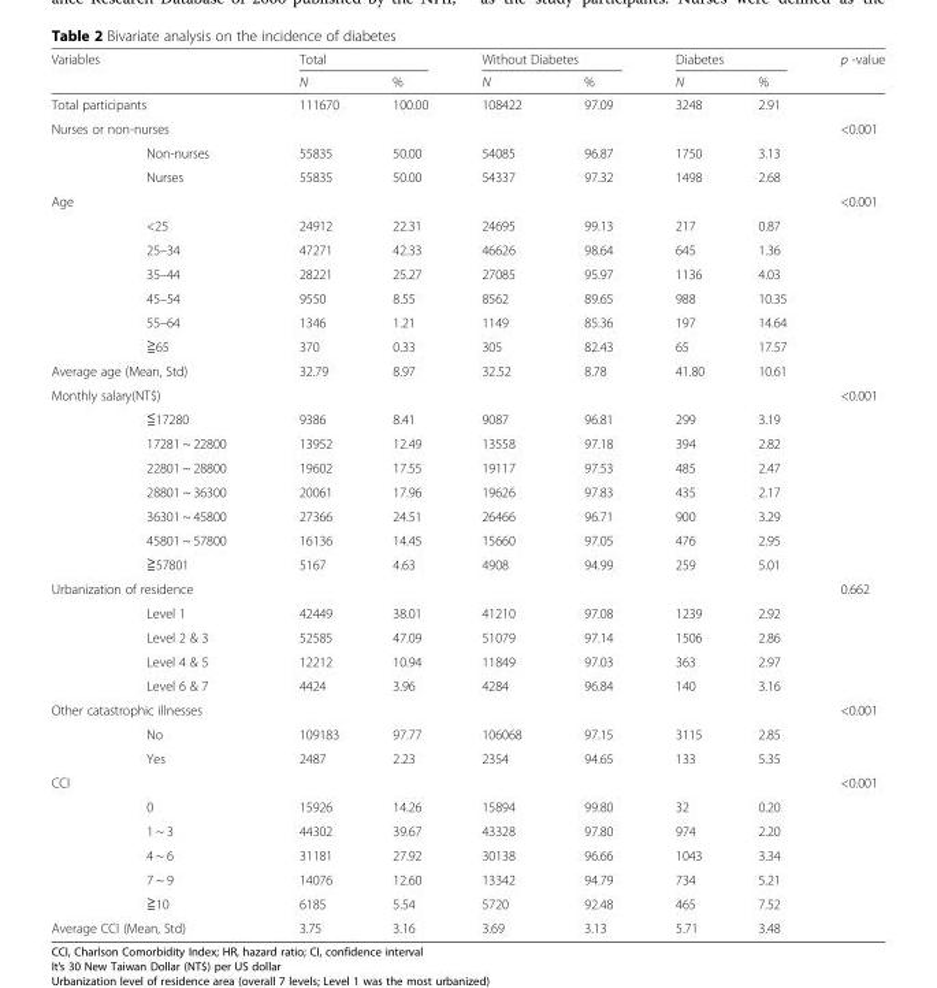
<table><thead><tr><td rowspan="4" colspan="2">Variables Total participants Nurses or non-nurses</td><td colspan="2">Total</td><td colspan="2">Without Diabetes</td><td colspan="2">Diabetes</td><td rowspan="5">p -value &lt;0.001</td></tr><tr><td rowspan="4">N 111670 55835</td><td rowspan="4">% 100.00 50.00</td><td rowspan="4">N 108422 54085</td><td rowspan="4">% 97.09 96.87</td><td rowspan="4">N 3248 1750</td><td rowspan="4">% 2.91 3.13</td></tr><tr></tr><tr></tr><tr><td></td><td>Non-nurses</td></tr></thead><tbody><tr><td></td><td>Nurses</td><td>55835</td><td>50.00</td><td>54337</td><td>97.32</td><td>1498</td><td>2.68</td><td></td></tr><tr><td rowspan="7">Age</td><td></td><td></td><td></td><td></td><td></td><td></td><td></td><td>&lt;0.001</td></tr><tr><td>&lt;25</td><td>24912</td><td>22.31</td><td>24695</td><td>99.13</td><td>217</td><td>0.87</td><td></td></tr><tr><td>25–34</td><td>47271</td><td>42.33</td><td>46626</td><td>98.64</td><td>645</td><td>1.36</td><td></td></tr><tr><td>35–44</td><td>28221</td><td>25.27</td><td>27085</td><td>95.97</td><td>1136</td><td>4.03</td><td></td></tr><tr><td>45–54</td><td>9550</td><td>8.55</td><td>8562</td><td>89.65</td><td>988</td><td>10.35</td><td></td></tr><tr><td>55–64</td><td>1346</td><td>1.21</td><td>1149</td><td>85.36</td><td>197</td><td>14.64</td><td></td></tr><tr><td>≧65</td><td>370</td><td>0.33</td><td>305</td><td>82.43</td><td>65</td><td>17.57</td><td></td></tr><tr><td colspan="2">Average age (Mean, Std)</td><td>32.79</td><td>8.97</td><td>32.52</td><td>8.78</td><td>41.80</td><td>10.61</td><td></td></tr><tr><td colspan="2">Monthly salary(NT$)</td><td></td><td></td><td></td><td></td><td></td><td></td><td>&lt;0.001</td></tr><tr><td></td><td>≦17280</td><td>9386</td><td>8.41</td><td>9087</td><td>96.81</td><td>299</td><td>3.19</td><td></td></tr><tr><td></td><td>17281 ~ 22800</td><td>13952</td><td>12.49</td><td>13558</td><td>97.18</td><td>394</td><td>2.82</td><td></td></tr><tr><td></td><td>22801 ~ 28800</td><td>19602</td><td>17.55</td><td>19117</td><td>97.53</td><td>485</td><td>2.47</td><td></td></tr><tr><td></td><td>28801 ~ 36300</td><td>20061</td><td>17.96</td><td>19626</td><td>97.83</td><td>435</td><td>2.17</td><td></td></tr><tr><td></td><td>36301 ~ 45800</td><td>27366</td><td>24.51</td><td>26466</td><td>96.71</td><td>900</td><td>3.29</td><td></td></tr><tr><td></td><td>45801 ~ 57800</td><td>16136</td><td>14.45</td><td>15660</td><td>97.05</td><td>476</td><td>2.95</td><td></td></tr><tr><td></td><td>≧57801</td><td>5167</td><td>4.63</td><td>4908</td><td>94.99</td><td>259</td><td>5.01</td><td></td></tr><tr><td colspan="2">Urbanization of residence</td><td></td><td></td><td></td><td></td><td></td><td></td><td>0.662</td></tr><tr><td></td><td>Level 1</td><td>42449</td><td>38.01</td><td>41210</td><td>97.08</td><td>1239</td><td>2.92</td><td></td></tr><tr><td></td><td>Level 2 &amp; 3</td><td>52585</td><td>47.09</td><td>51079</td><td>97.14</td><td>1506</td><td>2.86</td><td></td></tr><tr><td></td><td>Level 4 &amp; 5</td><td>12212</td><td>10.94</td><td>11849</td><td>97.03</td><td>363</td><td>2.97</td><td></td></tr><tr><td></td><td>Level 6 &amp; 7</td><td>4424</td><td>3.96</td><td>4284</td><td>96.84</td><td>140</td><td>3.16</td><td></td></tr><tr><td colspan="2">Other catastrophic illnesses</td><td></td><td></td><td></td><td></td><td></td><td></td><td>&lt;0.001</td></tr><tr><td></td><td>No</td><td>109183</td><td>97.77</td><td>106068</td><td>97.15</td><td>3115</td><td>2.85</td><td></td></tr><tr><td></td><td>Yes</td><td>2487</td><td>2.23</td><td>2354</td><td>94.65</td><td>133</td><td>5.35</td><td></td></tr><tr><td colspan="2">CCI</td><td></td><td></td><td></td><td></td><td></td><td></td><td>&lt;0.001</td></tr><tr><td></td><td>0</td><td>15926</td><td>14.26</td><td>15894</td><td>99.80</td><td>32</td><td>0.20</td><td></td></tr><tr><td></td><td>1 ~ 3</td><td>44302</td><td>39.67</td><td>43328</td><td>97.80</td><td>974</td><td>2.20</td><td></td></tr><tr><td></td><td>4 ~ 6</td><td>31181</td><td>27.92</td><td>30138</td><td>96.66</td><td>1043</td><td>3.34</td><td></td></tr><tr><td></td><td>7 ~ 9</td><td>14076</td><td>12.60</td><td>13342</td><td>94.79</td><td>734</td><td>5.21</td><td></td></tr><tr><td></td><td>≧10</td><td>6185</td><td>5.54</td><td>5720</td><td>92.48</td><td>465</td><td>7.52</td><td></td></tr><tr><td colspan="2">Average CCI (Mean, Std)</td><td>3.75</td><td>3.16</td><td>3.69</td><td>3.13</td><td>5.71</td><td>3.48</td><td></td></tr></tbody></table>